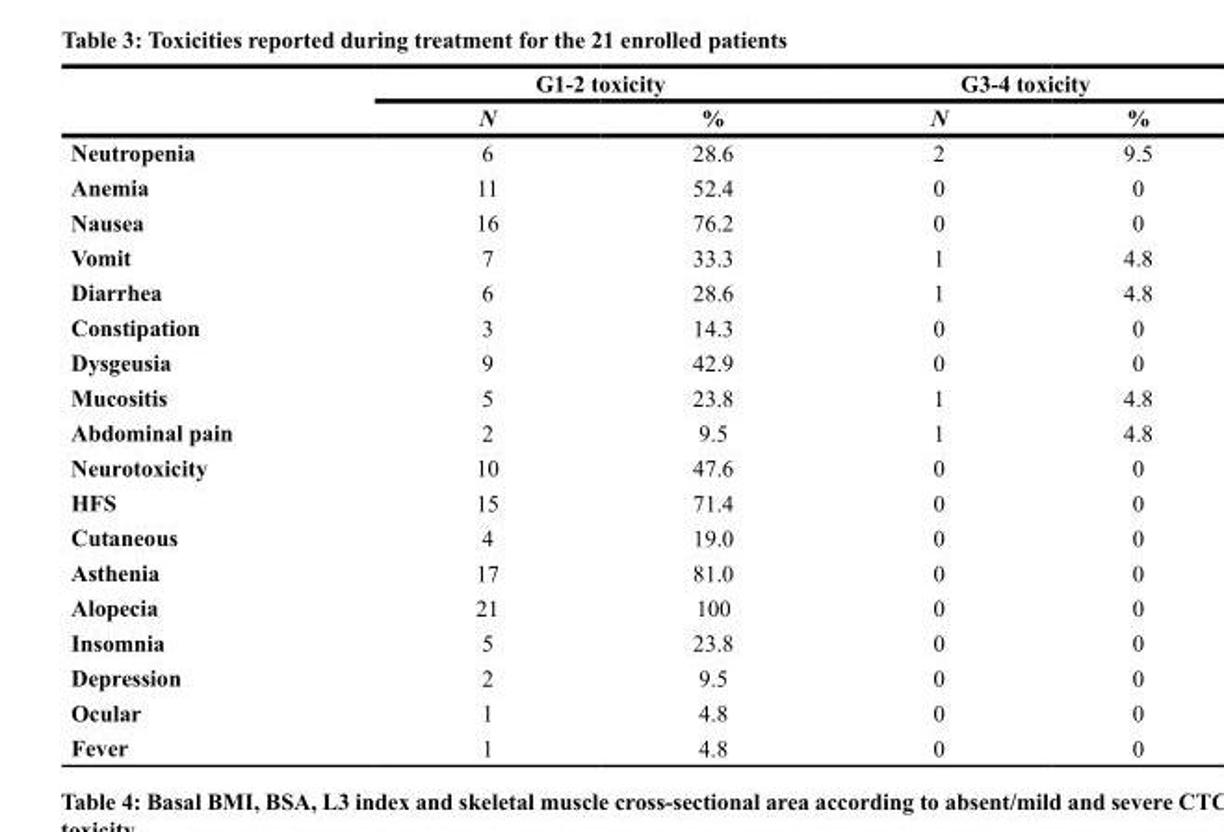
<table><thead><tr><td rowspan="2"></td><td colspan="2">G1-2 toxicity</td><td colspan="2">G3-4 toxicity</td></tr><tr><td>N</td><td>%</td><td>N</td><td>%</td></tr></thead><tbody><tr><td>Neutropenia</td><td>6</td><td>28.6</td><td>2</td><td>9.5</td></tr><tr><td>Anemia</td><td>11</td><td>52.4</td><td>0</td><td>0</td></tr><tr><td>Nausea</td><td>16</td><td>76.2</td><td>0</td><td>0</td></tr><tr><td>Vomit</td><td>7</td><td>33.3</td><td>1</td><td>4.8</td></tr><tr><td>Diarrhea</td><td>6</td><td>28.6</td><td>1</td><td>4.8</td></tr><tr><td>Constipation</td><td>3</td><td>14.3</td><td>0</td><td>0</td></tr><tr><td>Dysgeusia</td><td>9</td><td>42.9</td><td>0</td><td>0</td></tr><tr><td>Mucositis</td><td>5</td><td>23.8</td><td>1</td><td>4.8</td></tr><tr><td>Abdominal pain</td><td>2</td><td>9.5</td><td>1</td><td>4.8</td></tr><tr><td>Neurotoxicity</td><td>10</td><td>47.6</td><td>0</td><td>0</td></tr><tr><td>HFS</td><td>15</td><td>71.4</td><td>0</td><td>0</td></tr><tr><td>Cutaneous</td><td>4</td><td>19.0</td><td>0</td><td>0</td></tr><tr><td>Asthenia</td><td>17</td><td>81.0</td><td>0</td><td>0</td></tr><tr><td>Alopecia</td><td>21</td><td>100</td><td>0</td><td>0</td></tr><tr><td>Insomnia</td><td>5</td><td>23.8</td><td>0</td><td>0</td></tr><tr><td>Depression</td><td>2</td><td>9.5</td><td>0</td><td>0</td></tr><tr><td>Ocular</td><td>1</td><td>4.8</td><td>0</td><td>0</td></tr><tr><td>Fever</td><td>1</td><td>4.8</td><td>0</td><td>0</td></tr></tbody></table>